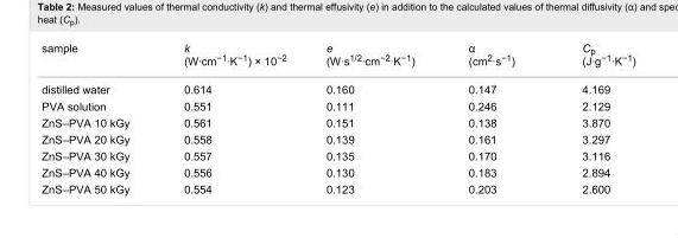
<table><tbody><tr><td>sample</td><td>k (W·cm<sup>−1</sup>·K<sup>−1</sup>) × 10<sup>−2</sup></td><td>e (W·s<sup>1/2</sup>·cm<sup>−2</sup>·K<sup>−1</sup>)</td><td>α (cm<sup>2</sup>·s<sup>−1</sup>)</td><td>C<sub>p</sub> (J·g<sup>−1</sup>·K<sup>−1</sup>)</td></tr><tr><td>distilled water</td><td>0.614</td><td>0.160</td><td>0.147</td><td>4.169</td></tr><tr><td>PVA solution</td><td>0.551</td><td>0.111</td><td>0.246</td><td>2.129</td></tr><tr><td>ZnS–PVA 10 kGy</td><td>0.561</td><td>0.151</td><td>0.138</td><td>3.870</td></tr><tr><td>ZnS–PVA 20 kGy</td><td>0.558</td><td>0.139</td><td>0.161</td><td>3.297</td></tr><tr><td>ZnS–PVA 30 kGy</td><td>0.557</td><td>0.135</td><td>0.170</td><td>3.116</td></tr><tr><td>ZnS–PVA 40 kGy</td><td>0.556</td><td>0.130</td><td>0.183</td><td>2.894</td></tr><tr><td>ZnS–PVA 50 kGy</td><td>0.554</td><td>0.123</td><td>0.203</td><td>2.600</td></tr></tbody></table>